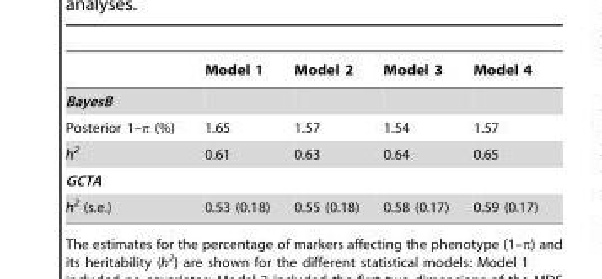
<table><thead><tr><td></td><td>Model 1</td><td>Model 2</td><td>Model 3</td><td>Model 4</td></tr></thead><tbody><tr><td colspan="5">BayesB</td></tr><tr><td>Posterior 1–π (%)</td><td>1.65</td><td>1.57</td><td>1.54</td><td>1.57</td></tr><tr><td>h<sup>2</sup></td><td>0.61</td><td>0.63</td><td>0.64</td><td>0.65</td></tr><tr><td colspan="5">GCTA</td></tr><tr><td>h<sup>2</sup> (s.e.)</td><td>0.53 (0.18)</td><td>0.55 (0.18)</td><td>0.58 (0.17)</td><td>0.59 (0.17)</td></tr></tbody></table>